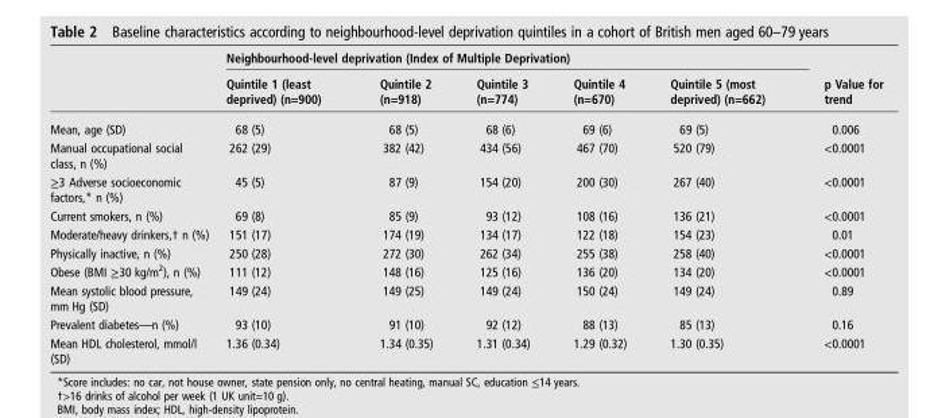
<table><thead><tr><td rowspan="2"></td><td colspan="5">Neighbourhood-level deprivation (Index of Multiple Deprivation)</td><td rowspan="2">p Value for trend</td></tr><tr><td>Quintile 1 (least deprived) (n=900)</td><td>Quintile 2 (n=918)</td><td>Quintile 3 (n=774)</td><td>Quintile 4 (n=670)</td><td>Quintile 5 (most deprived) (n=662)</td></tr></thead><tbody><tr><td>Mean, age (SD)</td><td>68 (5)</td><td>68 (5)</td><td>68 (6)</td><td>69 (6)</td><td>69 (5)</td><td>0.006</td></tr><tr><td>Manual occupational social class, n (%)</td><td>262 (29)</td><td>382 (42)</td><td>434 (56)</td><td>467 (70)</td><td>520 (79)</td><td>&lt;0.0001</td></tr><tr><td>≥3 Adverse socioeconomic factors,* n (%)</td><td>45 (5)</td><td>87 (9)</td><td>154 (20)</td><td>200 (30)</td><td>267 (40)</td><td>&lt;0.0001</td></tr><tr><td>Current smokers, n (%)</td><td>69 (8)</td><td>85 (9)</td><td>93 (12)</td><td>108 (16)</td><td>136 (21)</td><td>&lt;0.0001</td></tr><tr><td>Moderate/heavy drinkers,† n (%)</td><td>151 (17)</td><td>174 (19)</td><td>134 (17)</td><td>122 (18)</td><td>154 (23)</td><td>0.01</td></tr><tr><td>Physically inactive, n (%)</td><td>250 (28)</td><td>272 (30)</td><td>262 (34)</td><td>255 (38)</td><td>258 (40)</td><td>&lt;0.0001</td></tr><tr><td>Obese (BMI ≥30 kg/m<sup>2</sup>), n (%)</td><td>111 (12)</td><td>148 (16)</td><td>125 (16)</td><td>136 (20)</td><td>134 (20)</td><td>&lt;0.0001</td></tr><tr><td>Mean systolic blood pressure, mm Hg (SD)</td><td>149 (24)</td><td>149 (25)</td><td>149 (24)</td><td>150 (24)</td><td>149 (24)</td><td>0.89</td></tr><tr><td>Prevalent diabetes—n (%)</td><td>93 (10)</td><td>91 (10)</td><td>92 (12)</td><td>88 (13)</td><td>85 (13)</td><td>0.16</td></tr><tr><td>Mean HDL cholesterol, mmol/l (SD)</td><td>1.36 (0.34)</td><td>1.34 (0.35)</td><td>1.31 (0.34)</td><td>1.29 (0.32)</td><td>1.30 (0.35)</td><td>&lt;0.0001</td></tr></tbody></table>